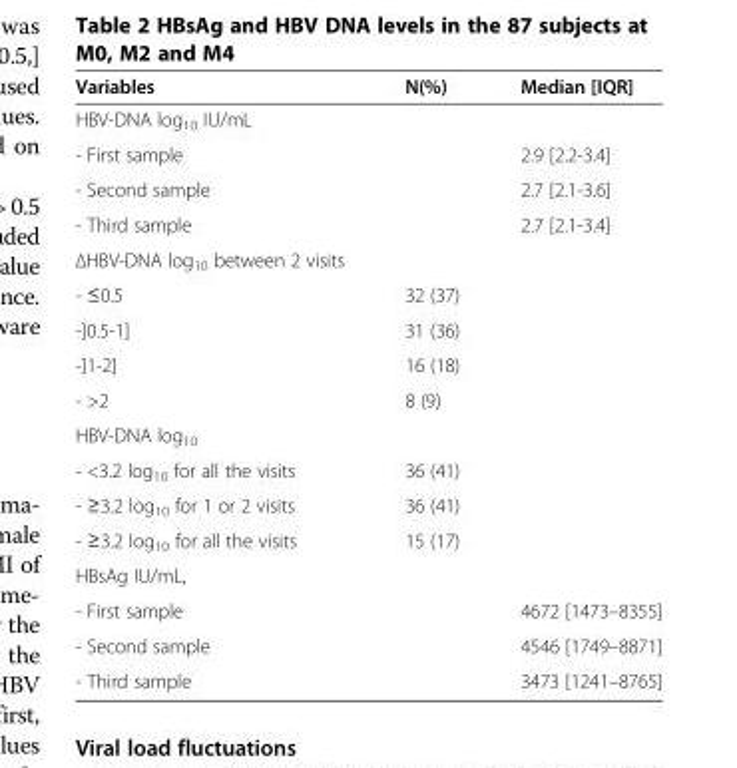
<table><thead><tr><td>Variables</td><td>N(%)</td><td>Median [IQR]</td></tr></thead><tbody><tr><td colspan="3">HBV-DNA log<sub>10</sub> IU/mL</td></tr><tr><td>- First sample</td><td></td><td>2.9 [2.2-3.4]</td></tr><tr><td>- Second sample</td><td></td><td>2.7 [2.1-3.6]</td></tr><tr><td>- Third sample</td><td></td><td>2.7 [2.1-3.4]</td></tr><tr><td colspan="3">ΔHBV-DNA log10 between 2 visits</td></tr><tr><td>- ≤0.5</td><td>32 (37)</td><td></td></tr><tr><td>-]0.5-1]</td><td>31 (36)</td><td></td></tr><tr><td>-]1-2]</td><td>16 (18)</td><td></td></tr><tr><td>- &gt;2</td><td>8 (9)</td><td></td></tr><tr><td colspan="3">HBV-DNA log<sub>10</sub></td></tr><tr><td>- &lt;3.2 log<sub>10</sub> for all the visits</td><td>36 (41)</td><td></td></tr><tr><td>- ≥3.2 log<sub>10</sub> for 1 or 2 visits</td><td>36 (41)</td><td></td></tr><tr><td>- ≥3.2 log<sub>10</sub> for all the visits</td><td>15 (17)</td><td></td></tr><tr><td colspan="3">HBsAg IU/mL,</td></tr><tr><td>- First sample</td><td></td><td>4672 [1473–8355]</td></tr><tr><td>- Second sample</td><td></td><td>4546 [1749–8871]</td></tr><tr><td>- Third sample</td><td></td><td>3473 [1241–8765]</td></tr></tbody></table>